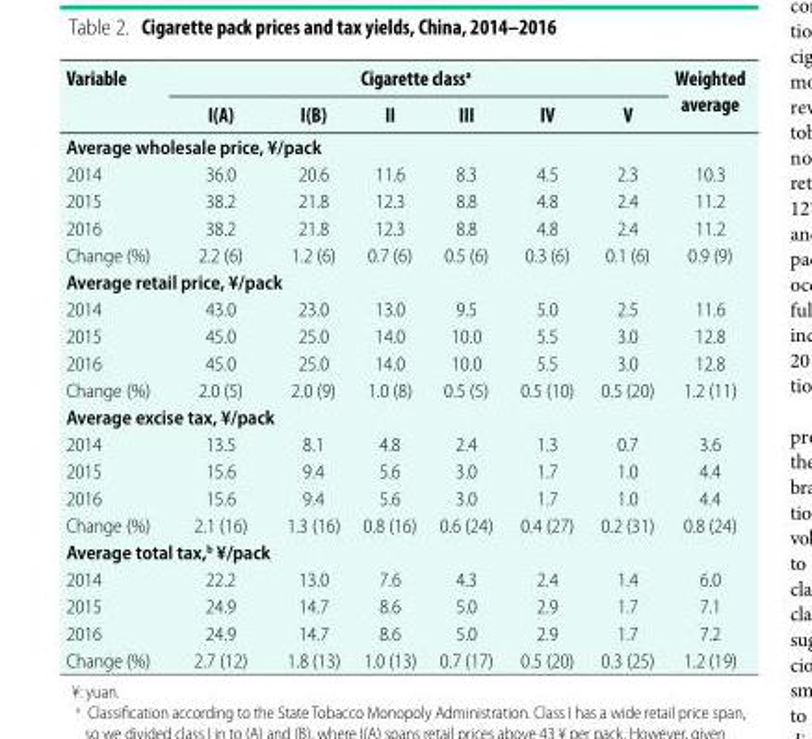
<table><thead><tr><td rowspan="2">Variable</td><td colspan="6">Cigarette class<sup>a</sup></td><td rowspan="2">Weighted average</td></tr><tr><td>I(A)</td><td>I(B)</td><td>II</td><td>III</td><td>IV</td><td>V</td></tr></thead><tbody><tr><td colspan="8">Average wholesale price, ¥/pack</td></tr><tr><td>2014</td><td>36.0</td><td>20.6</td><td>11.6</td><td>8.3</td><td>4.5</td><td>2.3</td><td>10.3</td></tr><tr><td>2015</td><td>38.2</td><td>21.8</td><td>12.3</td><td>8.8</td><td>4.8</td><td>2.4</td><td>11.2</td></tr><tr><td>2016</td><td>38.2</td><td>21.8</td><td>12.3</td><td>8.8</td><td>4.8</td><td>2.4</td><td>11.2</td></tr><tr><td>Change (%)</td><td>2.2 (6)</td><td>1.2 (6)</td><td>0.7 (6)</td><td>0.5 (6)</td><td>0.3 (6)</td><td>0.1 (6)</td><td>0.9 (9)</td></tr><tr><td colspan="8">Average retail price, ¥/pack</td></tr><tr><td>2014</td><td>43.0</td><td>23.0</td><td>13.0</td><td>9.5</td><td>5.0</td><td>2.5</td><td>11.6</td></tr><tr><td>2015</td><td>45.0</td><td>25.0</td><td>14.0</td><td>10.0</td><td>5.5</td><td>3.0</td><td>12.8</td></tr><tr><td>2016</td><td>45.0</td><td>25.0</td><td>14.0</td><td>10.0</td><td>5.5</td><td>3.0</td><td>12.8</td></tr><tr><td>Change (%)</td><td>2.0 (5)</td><td>2.0 (9)</td><td>1.0 (8)</td><td>0.5 (5)</td><td>0.5 (10)</td><td>0.5 (20)</td><td>1.2 (11)</td></tr><tr><td colspan="8">Average excise tax, ¥/pack</td></tr><tr><td>2014</td><td>13.5</td><td>8.1</td><td>4.8</td><td>2.4</td><td>1.3</td><td>0.7</td><td>3.6</td></tr><tr><td>2015</td><td>15.6</td><td>9.4</td><td>5.6</td><td>3.0</td><td>1.7</td><td>1.0</td><td>4.4</td></tr><tr><td>2016</td><td>15.6</td><td>9.4</td><td>5.6</td><td>3.0</td><td>1.7</td><td>1.0</td><td>4.4</td></tr><tr><td>Change (%)</td><td>2.1 (16)</td><td>1.3 (16)</td><td>0.8 (16)</td><td>0.6 (24)</td><td>0.4 (27)</td><td>0.2 (31)</td><td>0.8 (24)</td></tr><tr><td colspan="8">Average total tax,<sup>b</sup> ¥/pack</td></tr><tr><td>2014</td><td>22.2</td><td>13.0</td><td>7.6</td><td>4.3</td><td>2.4</td><td>1.4</td><td>6.0</td></tr><tr><td>2015</td><td>24.9</td><td>14.7</td><td>8.6</td><td>5.0</td><td>2.9</td><td>1.7</td><td>7.1</td></tr><tr><td>2016</td><td>24.9</td><td>14.7</td><td>8.6</td><td>5.0</td><td>2.9</td><td>1.7</td><td>7.2</td></tr><tr><td>Change (%)</td><td>2.7 (12)</td><td>1.8 (13)</td><td>1.0 (13)</td><td>0.7 (17)</td><td>0.5 (20)</td><td>0.3 (25)</td><td>1.2 (19)</td></tr></tbody></table>